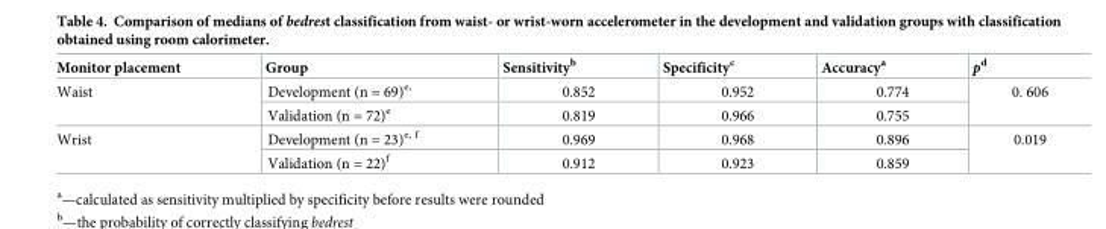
<table><thead><tr><td>Monitor placement</td><td>Group</td><td>Sensitivity<sup>b</sup></td><td>Specificity<sup>c</sup></td><td>Accuracy<sup>a</sup></td><td>p<sup>d</sup></td></tr></thead><tbody><tr><td rowspan="2">Waist</td><td>Development (n = 69)<sup>e,</sup></td><td>0.852</td><td>0.952</td><td>0.774</td><td rowspan="2">0. 606</td></tr><tr><td>Validation (n = 72)<sup>e</sup></td><td>0.819</td><td>0.966</td><td>0.755</td></tr><tr><td rowspan="2">Wrist</td><td>Development (n = 23)<sup>e, f</sup></td><td>0.969</td><td>0.968</td><td>0.896</td><td rowspan="2">0.019</td></tr><tr><td>Validation (n = 22)<sup>f</sup></td><td>0.912</td><td>0.923</td><td>0.859</td></tr></tbody></table>